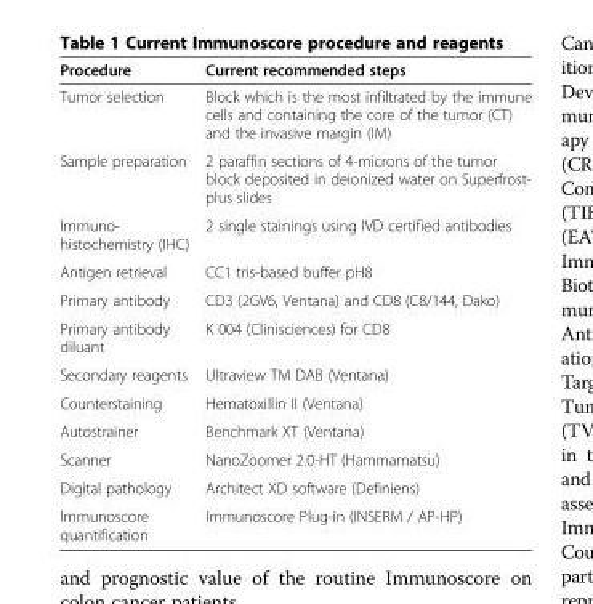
<table><thead><tr><td>Procedure</td><td>Current recommended steps</td></tr></thead><tbody><tr><td>Tumor selection</td><td>Block which is the most infiltrated by the immune cells and containing the core of the tumor (CT) and the invasive margin (IM)</td></tr><tr><td>Sample preparation</td><td>2 paraffin sections of 4-microns of the tumor block deposited in deionized water on Superfrost- plus slides</td></tr><tr><td>Immuno- histochemistry (IHC)</td><td>2 single stainings using IVD certified antibodies</td></tr><tr><td>Antigen retrieval</td><td>CC1 tris-based buffer pH8</td></tr><tr><td>Primary antibody</td><td>CD3 (2GV6, Ventana) and CD8 (C8/144, Dako)</td></tr><tr><td>Primary antibody diluant</td><td>K 004 (Clinisciences) for CD8</td></tr><tr><td>Secondary reagents</td><td>Ultraview TM DAB (Ventana)</td></tr><tr><td>Counterstaining</td><td>Hematoxillin II (Ventana)</td></tr><tr><td>Autostrainer</td><td>Benchmark XT (Ventana)</td></tr><tr><td>Scanner</td><td>NanoZoomer 2.0-HT (Hammamatsu)</td></tr><tr><td>Digital pathology</td><td>Architect XD software (Definiens)</td></tr><tr><td>Immunoscore quantification</td><td>Immunoscore Plug-in (INSERM / AP-HP)</td></tr></tbody></table>